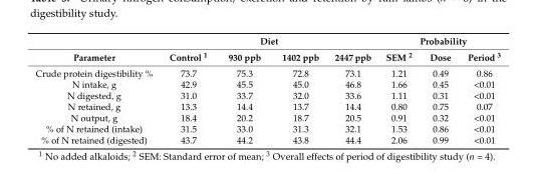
<table><thead><tr><td rowspan="2">Parameter</td><td colspan="4">Diet</td><td colspan="3">Probability</td></tr><tr><td>Control <sup>1</sup></td><td>930 ppb</td><td>1402 ppb</td><td>2447 ppb</td><td>SEM <sup>2</sup></td><td>Dose</td><td>Period <sup>3</sup></td></tr></thead><tbody><tr><td>Crude protein digestibility %</td><td>73.7</td><td>75.3</td><td>72.8</td><td>73.1</td><td>1.21</td><td>0.49</td><td>0.86</td></tr><tr><td>N intake, g</td><td>42.9</td><td>45.5</td><td>45.0</td><td>46.8</td><td>1.66</td><td>0.45</td><td>&lt;0.01</td></tr><tr><td>N digested, g</td><td>31.0</td><td>33.7</td><td>32.0</td><td>33.6</td><td>1.11</td><td>0.31</td><td>&lt;0.01</td></tr><tr><td>N retained, g</td><td>13.3</td><td>14.4</td><td>13.7</td><td>14.4</td><td>0.80</td><td>0.75</td><td>0.07</td></tr><tr><td>N output, g</td><td>18.4</td><td>20.2</td><td>18.7</td><td>20.5</td><td>0.91</td><td>0.32</td><td>&lt;0.01</td></tr><tr><td>% of N retained (intake)</td><td>31.5</td><td>33.0</td><td>31.3</td><td>32.1</td><td>1.53</td><td>0.86</td><td>&lt;0.01</td></tr><tr><td>% of N retained (digested)</td><td>43.7</td><td>44.2</td><td>43.8</td><td>44.4</td><td>2.06</td><td>0.99</td><td>&lt;0.01</td></tr></tbody></table>